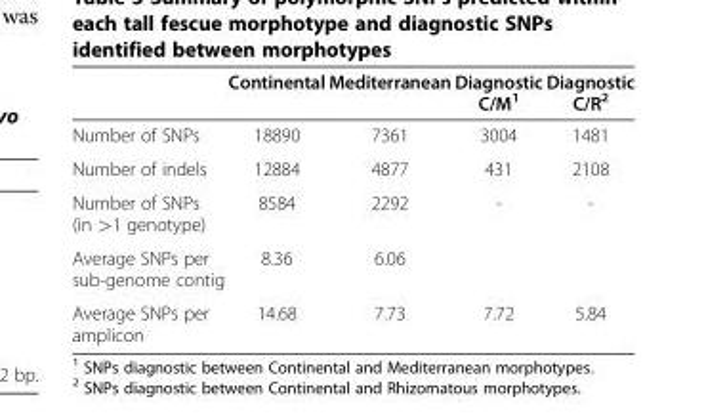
<table><thead><tr><td></td><td>Continental</td><td>Mediterranean</td><td>Diagnostic C/M<sup>1</sup></td><td>Diagnostic C/R<sup>2</sup></td></tr></thead><tbody><tr><td>Number of SNPs</td><td>18890</td><td>7361</td><td>3004</td><td>1481</td></tr><tr><td>Number of indels</td><td>12884</td><td>4877</td><td>431</td><td>2108</td></tr><tr><td>Number of SNPs (in &gt;1 genotype)</td><td>8584</td><td>2292</td><td>-</td><td>-</td></tr><tr><td>Average SNPs per sub-genome contig</td><td>8.36</td><td>6.06</td><td></td><td></td></tr><tr><td>Average SNPs per amplicon</td><td>14.68</td><td>7.73</td><td>7.72</td><td>5.84</td></tr></tbody></table>